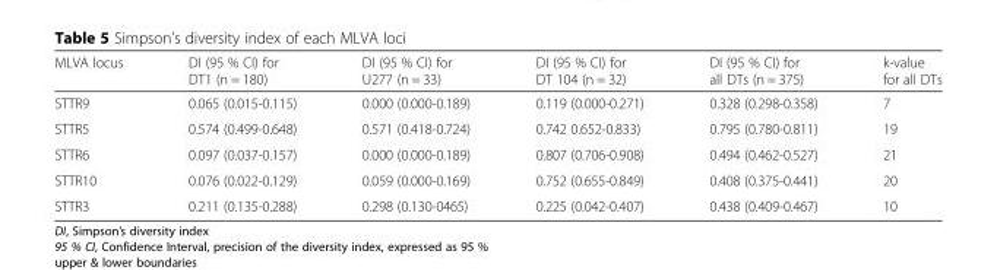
<table><thead><tr><td>MLVA locus</td><td>DI (95 % CI) for DT1 (n = 180)</td><td>DI (95 % CI) for U277 (n = 33)</td><td>DI (95 % CI) for DT 104 (n = 32)</td><td>DI (95 % CI) for all DTs (n = 375)</td><td>k-value for all DTs</td></tr></thead><tbody><tr><td>STTR9</td><td>0.065 (0.015-0.115)</td><td>0.000 (0.000-0.189)</td><td>0.119 (0.000-0.271)</td><td>0.328 (0.298-0.358)</td><td>7</td></tr><tr><td>STTR5</td><td>0.574 (0.499-0.648)</td><td>0.571 (0.418-0.724)</td><td>0.742 0.652-0.833)</td><td>0.795 (0.780-0.811)</td><td>19</td></tr><tr><td>STTR6</td><td>0.097 (0.037-0.157)</td><td>0.000 (0.000-0.189)</td><td>0.807 (0.706-0.908)</td><td>0.494 (0.462-0.527)</td><td>21</td></tr><tr><td>STTR10</td><td>0.076 (0.022-0.129)</td><td>0.059 (0.000-0.169)</td><td>0.752 (0.655-0.849)</td><td>0.408 (0.375-0.441)</td><td>20</td></tr><tr><td>STTR3</td><td>0.211 (0.135-0.288)</td><td>0.298 (0.130-0465)</td><td>0.225 (0.042-0.407)</td><td>0.438 (0.409-0.467)</td><td>10</td></tr></tbody></table>